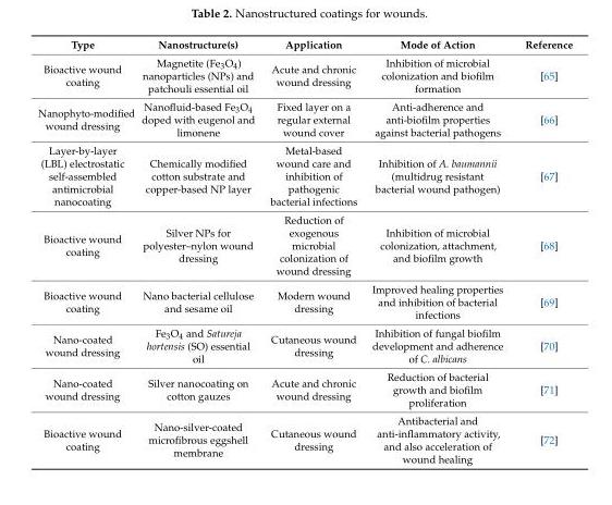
<table><thead><tr><td>Type</td><td>Nanostructure(s)</td><td>Application</td><td>Mode of Action</td><td>Reference</td></tr></thead><tbody><tr><td>Bioactive wound coating</td><td>Magnetite (Fe<sub>3</sub>O<sub>4</sub>) nanoparticles (NPs) and patchouli essential oil</td><td>Acute and chronic wound dressing</td><td>Inhibition of microbial colonization and biofilm formation</td><td>[65]</td></tr><tr><td>Nanophyto-modified wound dressing</td><td>Nanofluid-based Fe<sub>3</sub>O<sub>4</sub> doped with eugenol and limonene</td><td>Fixed layer on a regular external wound cover</td><td>Anti-adherence and anti-biofilm properties against bacterial pathogens</td><td>[66]</td></tr><tr><td>Layer-by-layer (LBL) electrostatic self-assembled antimicrobial nanocoating</td><td>Chemically modified cotton substrate and copper-based NP layer</td><td>Metal-based wound care and inhibition of pathogenic bacterial infections</td><td>Inhibition of A. baumannii (multidrug resistant bacterial wound pathogen)</td><td>[67]</td></tr><tr><td>Bioactive wound coating</td><td>Silver NPs for polyester–nylon wound dressing</td><td>Reduction of exogenous microbial colonization of wound dressing</td><td>Inhibition of microbial colonization, attachment, and biofilm growth</td><td>[68]</td></tr><tr><td>Bioactive wound coating</td><td>Nano bacterial cellulose and sesame oil</td><td>Modern wound dressing</td><td>Improved healing properties and inhibition of bacterial infections</td><td>[69]</td></tr><tr><td>Nano-coated wound dressing</td><td>Fe<sub>3</sub>O<sub>4</sub> and Satureja hortensis (SO) essential oil</td><td>Cutaneous wound dressing</td><td>Inhibition of fungal biofilm development and adherence of C. albicans</td><td>[70]</td></tr><tr><td>Nano-coated wound dressing</td><td>Silver nanocoating on cotton gauzes</td><td>Acute and chronic wound dressing</td><td>Reduction of bacterial growth and biofilm proliferation</td><td>[71]</td></tr><tr><td>Bioactive wound coating</td><td>Nano-silver-coated microfibrous eggshell membrane</td><td>Cutaneous wound dressing</td><td>Antibacterial and anti-inflammatory activity, and also acceleration of wound healing</td><td>[72]</td></tr></tbody></table>